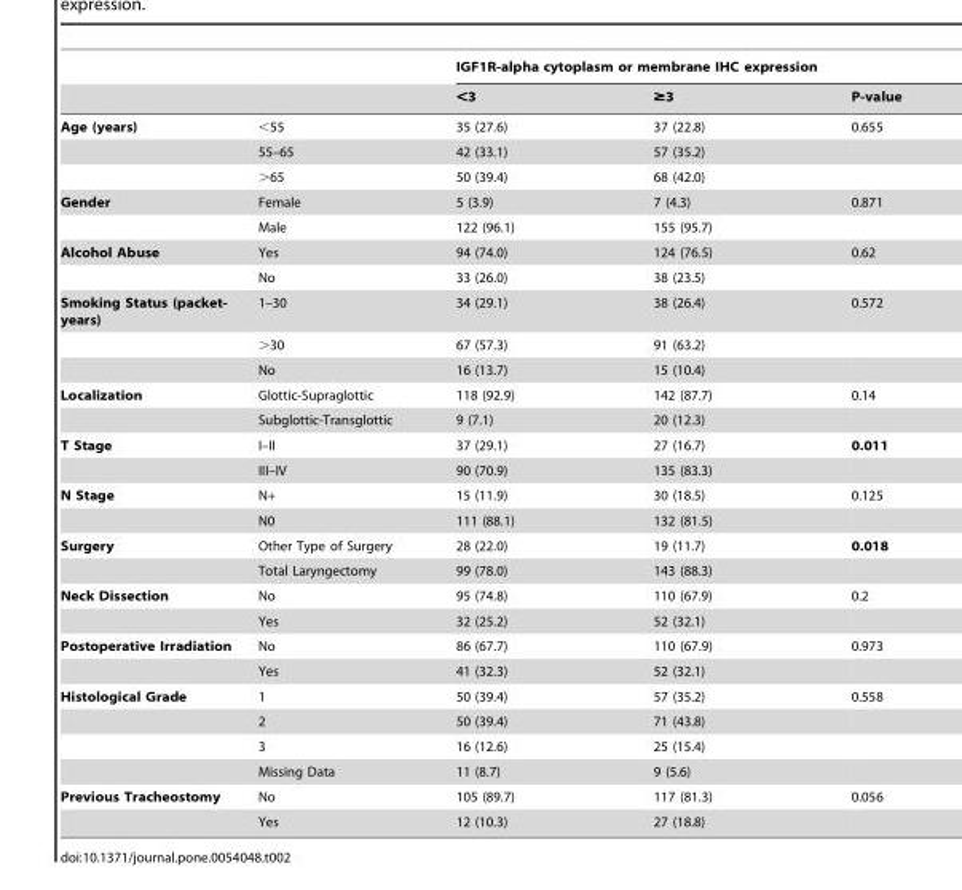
<table><thead><tr><td rowspan="2"></td><td rowspan="2"></td><td colspan="3">IGF1R-alpha cytoplasm or membrane IHC expression</td></tr><tr><td>&lt;3</td><td>≥3</td><td>P-value</td></tr></thead><tbody><tr><td rowspan="3">Age (years)</td><td>&lt;55</td><td>35 (27.6)</td><td>37 (22.8)</td><td>0.655</td></tr><tr><td>55–65</td><td>42 (33.1)</td><td>57 (35.2)</td><td></td></tr><tr><td>&gt;65</td><td>50 (39.4)</td><td>68 (42.0)</td><td></td></tr><tr><td rowspan="2">Gender</td><td>Female</td><td>5 (3.9)</td><td>7 (4.3)</td><td>0.871</td></tr><tr><td>Male</td><td>122 (96.1)</td><td>155 (95.7)</td><td></td></tr><tr><td rowspan="2">Alcohol Abuse</td><td>Yes</td><td>94 (74.0)</td><td>124 (76.5)</td><td>0.62</td></tr><tr><td>No</td><td>33 (26.0)</td><td>38 (23.5)</td><td></td></tr><tr><td rowspan="3">Smoking Status (packet- years)</td><td>1–30</td><td>34 (29.1)</td><td>38 (26.4)</td><td>0.572</td></tr><tr><td>&gt;30</td><td>67 (57.3)</td><td>91 (63.2)</td><td></td></tr><tr><td>No</td><td>16 (13.7)</td><td>15 (10.4)</td><td></td></tr><tr><td rowspan="2">Localization</td><td>Glottic-Supraglottic</td><td>118 (92.9)</td><td>142 (87.7)</td><td>0.14</td></tr><tr><td>Subglottic-Transglottic</td><td>9 (7.1)</td><td>20 (12.3)</td><td></td></tr><tr><td rowspan="2">T Stage</td><td>I–II</td><td>37 (29.1)</td><td>27 (16.7)</td><td>0.011</td></tr><tr><td>III–IV</td><td>90 (70.9)</td><td>135 (83.3)</td><td></td></tr><tr><td rowspan="2">N Stage</td><td>N+</td><td>15 (11.9)</td><td>30 (18.5)</td><td>0.125</td></tr><tr><td>N0</td><td>111 (88.1)</td><td>132 (81.5)</td><td></td></tr><tr><td rowspan="2">Surgery</td><td>Other Type of Surgery</td><td>28 (22.0)</td><td>19 (11.7)</td><td>0.018</td></tr><tr><td>Total Laryngectomy</td><td>99 (78.0)</td><td>143 (88.3)</td><td></td></tr><tr><td rowspan="2">Neck Dissection</td><td>No</td><td>95 (74.8)</td><td>110 (67.9)</td><td>0.2</td></tr><tr><td>Yes</td><td>32 (25.2)</td><td>52 (32.1)</td><td></td></tr><tr><td rowspan="2">Postoperative Irradiation</td><td>No</td><td>86 (67.7)</td><td>110 (67.9)</td><td>0.973</td></tr><tr><td>Yes</td><td>41 (32.3)</td><td>52 (32.1)</td><td></td></tr><tr><td rowspan="4">Histological Grade</td><td>1</td><td>50 (39.4)</td><td>57 (35.2)</td><td>0.558</td></tr><tr><td>2</td><td>50 (39.4)</td><td>71 (43.8)</td><td></td></tr><tr><td>3</td><td>16 (12.6)</td><td>25 (15.4)</td><td></td></tr><tr><td>Missing Data</td><td>11 (8.7)</td><td>9 (5.6)</td><td></td></tr><tr><td rowspan="2">Previous Tracheostomy</td><td>No</td><td>105 (89.7)</td><td>117 (81.3)</td><td>0.056</td></tr><tr><td>Yes</td><td>12 (10.3)</td><td>27 (18.8)</td><td></td></tr></tbody></table>